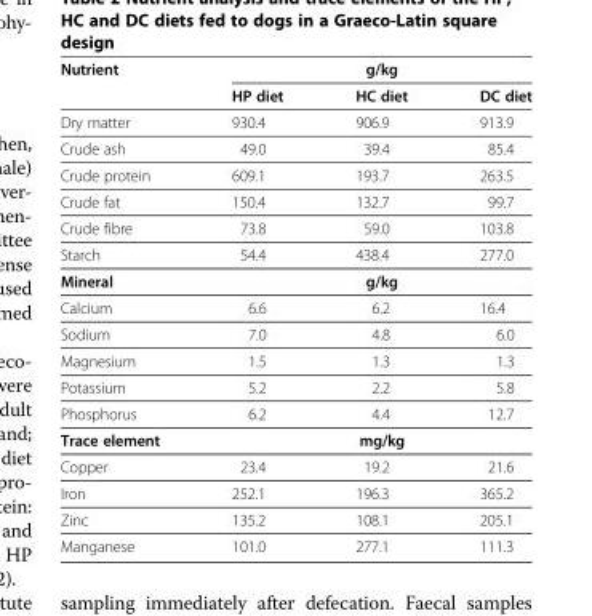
<table><thead><tr><td rowspan="2">Nutrient</td><td colspan="3">g/kg</td></tr><tr><td>HP diet</td><td>HC diet</td><td>DC diet</td></tr></thead><tbody><tr><td>Dry matter</td><td>930.4</td><td>906.9</td><td>913.9</td></tr><tr><td>Crude ash</td><td>49.0</td><td>39.4</td><td>85.4</td></tr><tr><td>Crude protein</td><td>609.1</td><td>193.7</td><td>263.5</td></tr><tr><td>Crude fat</td><td>150.4</td><td>132.7</td><td>99.7</td></tr><tr><td>Crude fibre</td><td>73.8</td><td>59.0</td><td>103.8</td></tr><tr><td>Starch</td><td>54.4</td><td>438.4</td><td>277.0</td></tr><tr><td>Mineral</td><td colspan="3">g/kg</td></tr><tr><td>Calcium</td><td>6.6</td><td>6.2</td><td>16.4</td></tr><tr><td>Sodium</td><td>7.0</td><td>4.8</td><td>6.0</td></tr><tr><td>Magnesium</td><td>1.5</td><td>1.3</td><td>1.3</td></tr><tr><td>Potassium</td><td>5.2</td><td>2.2</td><td>5.8</td></tr><tr><td>Phosphorus</td><td>6.2</td><td>4.4</td><td>12.7</td></tr><tr><td>Trace element</td><td colspan="3">mg/kg</td></tr><tr><td>Copper</td><td>23.4</td><td>19.2</td><td>21.6</td></tr><tr><td>Iron</td><td>252.1</td><td>196.3</td><td>365.2</td></tr><tr><td>Zinc</td><td>135.2</td><td>108.1</td><td>205.1</td></tr><tr><td>Manganese</td><td>101.0</td><td>277.1</td><td>111.3</td></tr></tbody></table>